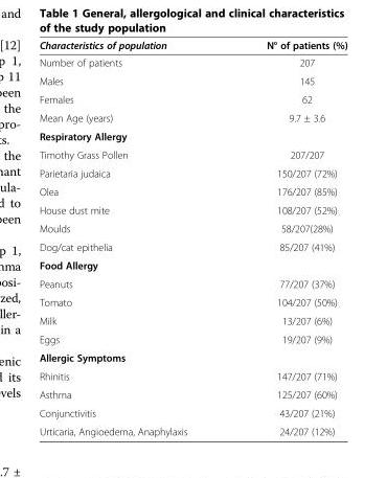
<table><thead><tr><td>Characteristics of population</td><td>N° of patients (%)</td></tr></thead><tbody><tr><td>Number of patients</td><td>207</td></tr><tr><td>Males</td><td>145</td></tr><tr><td>Females</td><td>62</td></tr><tr><td>Mean Age (years)</td><td>9.7 ± 3.6</td></tr><tr><td colspan="2">Respiratory Allergy</td></tr><tr><td>Timothy Grass Pollen</td><td>207/207</td></tr><tr><td>Parietaria judaica</td><td>150/207 (72%)</td></tr><tr><td>Olea</td><td>176/207 (85%)</td></tr><tr><td>House dust mite</td><td>108/207 (52%)</td></tr><tr><td>Moulds</td><td>58/207(28%)</td></tr><tr><td>Dog/cat epithelia</td><td>85/207 (41%)</td></tr><tr><td colspan="2">Food Allergy</td></tr><tr><td>Peanuts</td><td>77/207 (37%)</td></tr><tr><td>Tomato</td><td>104/207 (50%)</td></tr><tr><td>Milk</td><td>13/207 (6%)</td></tr><tr><td>Eggs</td><td>19/207 (9%)</td></tr><tr><td colspan="2">Allergic Symptoms</td></tr><tr><td>Rhinitis</td><td>147/207 (71%)</td></tr><tr><td>Asthma</td><td>125/207 (60%)</td></tr><tr><td>Conjunctivitis</td><td>43/207 (21%)</td></tr><tr><td>Urticaria, Angioedema, Anaphylaxis</td><td>24/207 (12%)</td></tr></tbody></table>